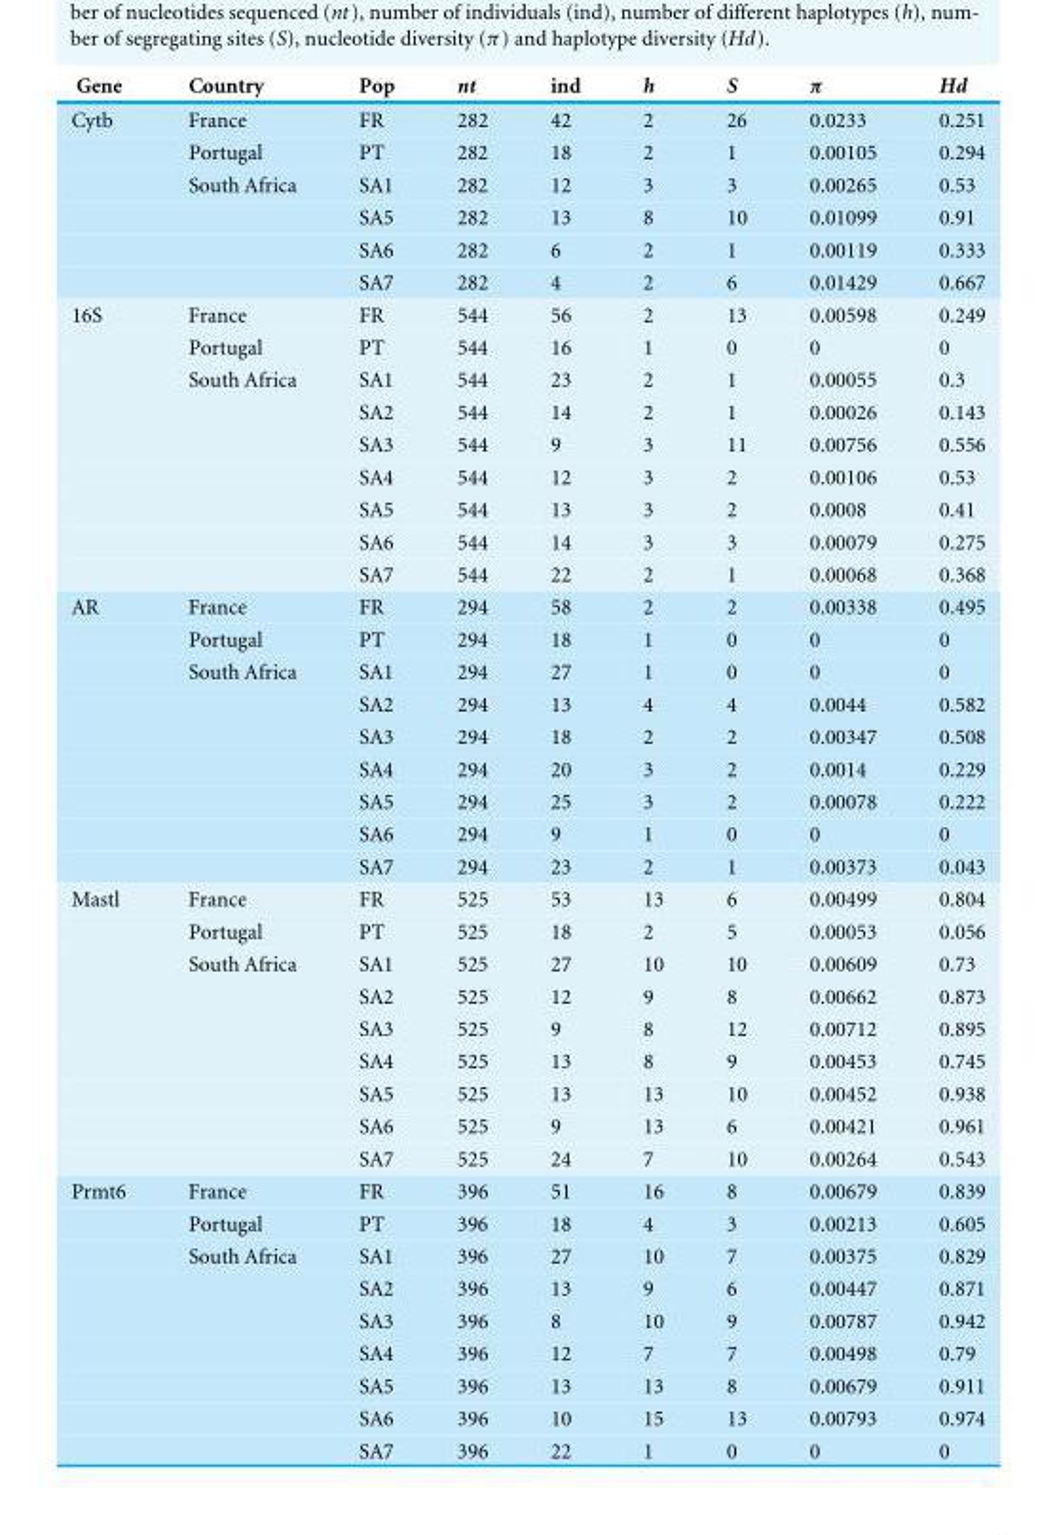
<table><thead><tr><td>Gene</td><td>Country</td><td>Pop</td><td>nt</td><td>ind</td><td>h</td><td>S</td><td>π</td><td>Hd</td></tr></thead><tbody><tr><td rowspan="6">Cytb</td><td>France</td><td>FR</td><td>282</td><td>42</td><td>2</td><td>26</td><td>0.0233</td><td>0.251</td></tr><tr><td>Portugal</td><td>PT</td><td>282</td><td>18</td><td>2</td><td>1</td><td>0.00105</td><td>0.294</td></tr><tr><td>South Africa</td><td>SA1</td><td>282</td><td>12</td><td>3</td><td>3</td><td>0.00265</td><td>0.53</td></tr><tr><td></td><td>SA5</td><td>282</td><td>13</td><td>8</td><td>10</td><td>0.01099</td><td>0.91</td></tr><tr><td></td><td>SA6</td><td>282</td><td>6</td><td>2</td><td>1</td><td>0.00119</td><td>0.333</td></tr><tr><td></td><td>SA7</td><td>282</td><td>4</td><td>2</td><td>6</td><td>0.01429</td><td>0.667</td></tr><tr><td rowspan="9">16S</td><td>France</td><td>FR</td><td>544</td><td>56</td><td>2</td><td>13</td><td>0.00598</td><td>0.249</td></tr><tr><td>Portugal</td><td>PT</td><td>544</td><td>16</td><td>1</td><td>0</td><td>0</td><td>0</td></tr><tr><td>South Africa</td><td>SA1</td><td>544</td><td>23</td><td>2</td><td>1</td><td>0.00055</td><td>0.3</td></tr><tr><td></td><td>SA2</td><td>544</td><td>14</td><td>2</td><td>1</td><td>0.00026</td><td>0.143</td></tr><tr><td></td><td>SA3</td><td>544</td><td>9</td><td>3</td><td>11</td><td>0.00756</td><td>0.556</td></tr><tr><td></td><td>SA4</td><td>544</td><td>12</td><td>3</td><td>2</td><td>0.00106</td><td>0.53</td></tr><tr><td></td><td>SA5</td><td>544</td><td>13</td><td>3</td><td>2</td><td>0.0008</td><td>0.41</td></tr><tr><td></td><td>SA6</td><td>544</td><td>14</td><td>3</td><td>3</td><td>0.00079</td><td>0.275</td></tr><tr><td></td><td>SA7</td><td>544</td><td>22</td><td>2</td><td>1</td><td>0.00068</td><td>0.368</td></tr><tr><td rowspan="9">AR</td><td>France</td><td>FR</td><td>294</td><td>58</td><td>2</td><td>2</td><td>0.00338</td><td>0.495</td></tr><tr><td>Portugal</td><td>PT</td><td>294</td><td>18</td><td>1</td><td>0</td><td>0</td><td>0</td></tr><tr><td>South Africa</td><td>SA1</td><td>294</td><td>27</td><td>1</td><td>0</td><td>0</td><td>0</td></tr><tr><td></td><td>SA2</td><td>294</td><td>13</td><td>4</td><td>4</td><td>0.0044</td><td>0.582</td></tr><tr><td></td><td>SA3</td><td>294</td><td>18</td><td>2</td><td>2</td><td>0.00347</td><td>0.508</td></tr><tr><td></td><td>SA4</td><td>294</td><td>20</td><td>3</td><td>2</td><td>0.0014</td><td>0.229</td></tr><tr><td></td><td>SA5</td><td>294</td><td>25</td><td>3</td><td>2</td><td>0.00078</td><td>0.222</td></tr><tr><td></td><td>SA6</td><td>294</td><td>9</td><td>1</td><td>0</td><td>0</td><td>0</td></tr><tr><td></td><td>SA7</td><td>294</td><td>23</td><td>2</td><td>1</td><td>0.00373</td><td>0.043</td></tr><tr><td rowspan="9">Mastl</td><td>France</td><td>FR</td><td>525</td><td>53</td><td>13</td><td>6</td><td>0.00499</td><td>0.804</td></tr><tr><td>Portugal</td><td>PT</td><td>525</td><td>18</td><td>2</td><td>5</td><td>0.00053</td><td>0.056</td></tr><tr><td>South Africa</td><td>SA1</td><td>525</td><td>27</td><td>10</td><td>10</td><td>0.00609</td><td>0.73</td></tr><tr><td></td><td>SA2</td><td>525</td><td>12</td><td>9</td><td>8</td><td>0.00662</td><td>0.873</td></tr><tr><td></td><td>SA3</td><td>525</td><td>9</td><td>8</td><td>12</td><td>0.00712</td><td>0.895</td></tr><tr><td></td><td>SA4</td><td>525</td><td>13</td><td>8</td><td>9</td><td>0.00453</td><td>0.745</td></tr><tr><td></td><td>SA5</td><td>525</td><td>13</td><td>13</td><td>10</td><td>0.00452</td><td>0.938</td></tr><tr><td></td><td>SA6</td><td>525</td><td>9</td><td>13</td><td>6</td><td>0.00421</td><td>0.961</td></tr><tr><td></td><td>SA7</td><td>525</td><td>24</td><td>7</td><td>10</td><td>0.00264</td><td>0.543</td></tr><tr><td rowspan="9">Prmt6</td><td>France</td><td>FR</td><td>396</td><td>51</td><td>16</td><td>8</td><td>0.00679</td><td>0.839</td></tr><tr><td>Portugal</td><td>PT</td><td>396</td><td>18</td><td>4</td><td>3</td><td>0.00213</td><td>0.605</td></tr><tr><td>South Africa</td><td>SA1</td><td>396</td><td>27</td><td>10</td><td>7</td><td>0.00375</td><td>0.829</td></tr><tr><td></td><td>SA2</td><td>396</td><td>13</td><td>9</td><td>6</td><td>0.00447</td><td>0.871</td></tr><tr><td></td><td>SA3</td><td>396</td><td>8</td><td>10</td><td>9</td><td>0.00787</td><td>0.942</td></tr><tr><td></td><td>SA4</td><td>396</td><td>12</td><td>7</td><td>7</td><td>0.00498</td><td>0.79</td></tr><tr><td></td><td>SA5</td><td>396</td><td>13</td><td>13</td><td>8</td><td>0.00679</td><td>0.911</td></tr><tr><td></td><td>SA6</td><td>396</td><td>10</td><td>15</td><td>13</td><td>0.00793</td><td>0.974</td></tr><tr><td></td><td>SA7</td><td>396</td><td>22</td><td>1</td><td>0</td><td>0</td><td>0</td></tr></tbody></table>